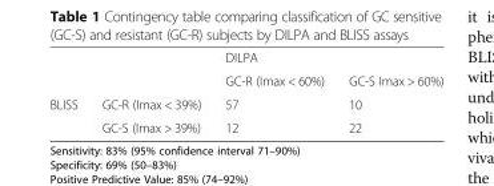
<table><thead><tr><td rowspan="2"></td><td rowspan="2"></td><td colspan="2">DILPA</td></tr><tr><td>GC-R (Imax &lt; 60%)</td><td>GC-S Imax &gt; 60%)</td></tr></thead><tbody><tr><td rowspan="2">BLISS</td><td>GC-R (Imax &lt; 39%)</td><td>57</td><td>10</td></tr><tr><td>GC-S (Imax &gt; 39%)</td><td>12</td><td>22</td></tr></tbody></table>